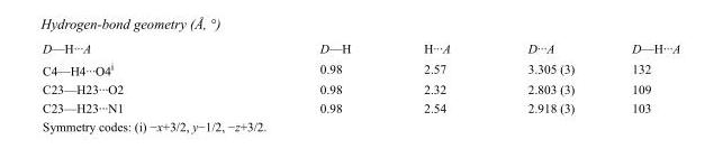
<table><tbody><tr><td>D—H···A</td><td>D—H</td><td>H···A</td><td>D···A</td><td>D—H···A</td></tr><tr><td>C4—H4···O4<sup>i</sup></td><td>0.98</td><td>2.57</td><td>3.305 (3)</td><td>132</td></tr><tr><td>C23—H23···O2</td><td>0.98</td><td>2.32</td><td>2.803 (3)</td><td>109</td></tr><tr><td>C23—H23···N1</td><td>0.98</td><td>2.54</td><td>2.918 (3)</td><td>103</td></tr></tbody></table>